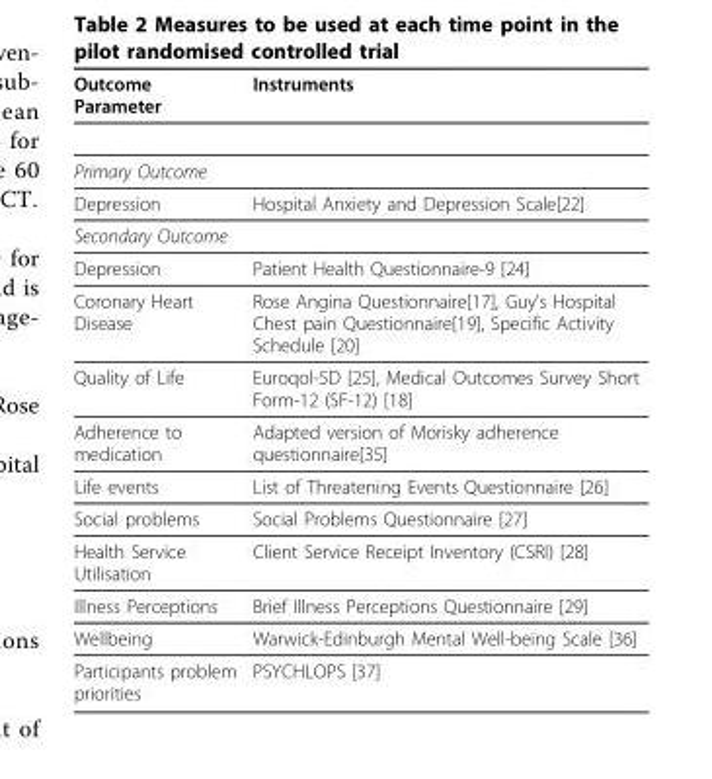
<table><thead><tr><td>Outcome Parameter</td><td>Instruments</td></tr></thead><tbody><tr><td colspan="2">Primary Outcome</td></tr><tr><td>Depression</td><td>Hospital Anxiety and Depression Scale[22]</td></tr><tr><td colspan="2">Secondary Outcome</td></tr><tr><td>Depression</td><td>Patient Health Questionnaire-9 [24]</td></tr><tr><td>Coronary Heart Disease</td><td>Rose Angina Questionnaire[17], Guy’s Hospital Chest pain Questionnaire[19], Specific Activity Schedule [20]</td></tr><tr><td>Quality of Life</td><td>Euroqol-5D [25], Medical Outcomes Survey Short Form-12 (SF-12) [18]</td></tr><tr><td>Adherence to medication</td><td>Adapted version of Morisky adherence questionnaire[35]</td></tr><tr><td>Life events</td><td>List of Threatening Events Questionnaire [26]</td></tr><tr><td>Social problems</td><td>Social Problems Questionnaire [27]</td></tr><tr><td>Health Service Utilisation</td><td>Client Service Receipt Inventory (CSRI) [28]</td></tr><tr><td>Illness Perceptions</td><td>Brief Illness Perceptions Questionnaire [29]</td></tr><tr><td>Wellbeing</td><td>Warwick-Edinburgh Mental Well-being Scale [36]</td></tr><tr><td>Participants problem priorities</td><td>PSYCHLOPS [37]</td></tr></tbody></table>